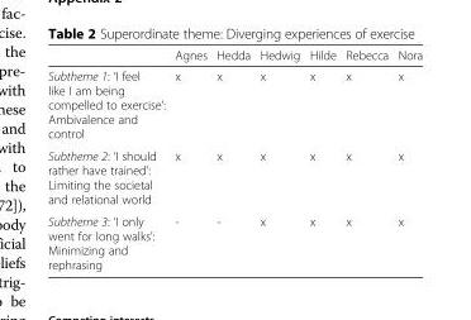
<table><thead><tr><td></td><td>Agnes</td><td>Hedda</td><td>Hedwig</td><td>Hilde</td><td>Rebecca</td><td>Nora</td></tr></thead><tbody><tr><td>Subtheme 1: ‘I feel like I am being compelled to exercise’: Ambivalence and control</td><td>x</td><td>x</td><td>x</td><td>x</td><td>x</td><td>x</td></tr><tr><td>Subtheme 2: ‘I should rather have trained’: Limiting the societal and relational world</td><td>x</td><td>x</td><td>x</td><td>x</td><td>x</td><td>x</td></tr><tr><td>Subtheme 3: ‘I only went for long walks’: Minimizing and rephrasing</td><td>-</td><td>-</td><td>x</td><td>x</td><td>x</td><td>x</td></tr></tbody></table>